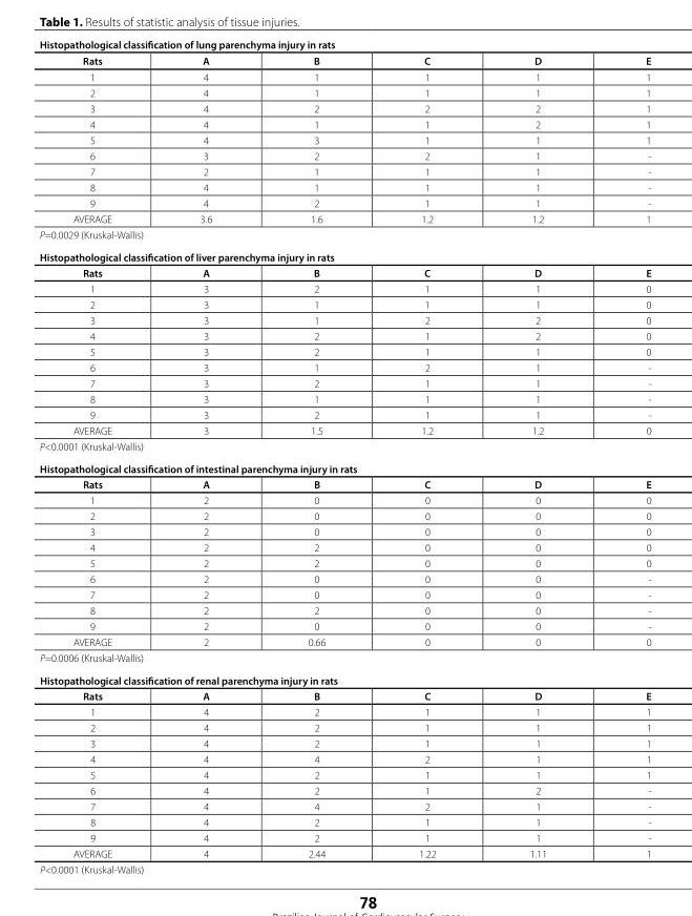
<table><tbody><tr><td colspan="6">Histopathological classification of lung parenchyma injury in rats</td></tr><tr><td>Rats</td><td>A</td><td>B</td><td>C</td><td>D</td><td>E</td></tr><tr><td>1</td><td>4</td><td>1</td><td>1</td><td>1</td><td>1</td></tr><tr><td>2</td><td>4</td><td>1</td><td>1</td><td>1</td><td>1</td></tr><tr><td>3</td><td>4</td><td>2</td><td>2</td><td>2</td><td>1</td></tr><tr><td>4</td><td>4</td><td>1</td><td>1</td><td>2</td><td>1</td></tr><tr><td>5</td><td>4</td><td>3</td><td>1</td><td>1</td><td>1</td></tr><tr><td>6</td><td>3</td><td>2</td><td>2</td><td>1</td><td>-</td></tr><tr><td>7</td><td>2</td><td>1</td><td>1</td><td>1</td><td>-</td></tr><tr><td>8</td><td>4</td><td>1</td><td>1</td><td>1</td><td>-</td></tr><tr><td>9</td><td>4</td><td>2</td><td>1</td><td>1</td><td>-</td></tr><tr><td>AVERAGE</td><td>3.6</td><td>1.6</td><td>1.2</td><td>1.2</td><td>1</td></tr><tr><td colspan="6">P=0.0029 (Kruskal-Wallis)</td></tr><tr><td colspan="6">Histopathological classification of liver parenchyma injury in rats</td></tr><tr><td>Rats</td><td>A</td><td>B</td><td>C</td><td>D</td><td>E</td></tr><tr><td>1</td><td>3</td><td>2</td><td>1</td><td>1</td><td>0</td></tr><tr><td>2</td><td>3</td><td>1</td><td>1</td><td>1</td><td>0</td></tr><tr><td>3</td><td>3</td><td>1</td><td>2</td><td>2</td><td>0</td></tr><tr><td>4</td><td>3</td><td>2</td><td>1</td><td>2</td><td>0</td></tr><tr><td>5</td><td>3</td><td>2</td><td>1</td><td>1</td><td>0</td></tr><tr><td>6</td><td>3</td><td>1</td><td>2</td><td>1</td><td>-</td></tr><tr><td>7</td><td>3</td><td>2</td><td>1</td><td>1</td><td>-</td></tr><tr><td>8</td><td>3</td><td>1</td><td>1</td><td>1</td><td>-</td></tr><tr><td>9</td><td>3</td><td>2</td><td>1</td><td>1</td><td>-</td></tr><tr><td>AVERAGE</td><td>3</td><td>1.5</td><td>1.2</td><td>1.2</td><td>0</td></tr><tr><td colspan="6">P&lt;0.0001 (Kruskal-Wallis)</td></tr><tr><td colspan="6">Histopathological classification of intestinal parenchyma injury in rats</td></tr><tr><td>Rats</td><td>A</td><td>B</td><td>C</td><td>D</td><td>E</td></tr><tr><td>1</td><td>2</td><td>0</td><td>0</td><td>0</td><td>0</td></tr><tr><td>2</td><td>2</td><td>0</td><td>0</td><td>0</td><td>0</td></tr><tr><td>3</td><td>2</td><td>0</td><td>0</td><td>0</td><td>0</td></tr><tr><td>4</td><td>2</td><td>2</td><td>0</td><td>0</td><td>0</td></tr><tr><td>5</td><td>2</td><td>2</td><td>0</td><td>0</td><td>0</td></tr><tr><td>6</td><td>2</td><td>0</td><td>0</td><td>0</td><td>-</td></tr><tr><td>7</td><td>2</td><td>0</td><td>0</td><td>0</td><td>-</td></tr><tr><td>8</td><td>2</td><td>2</td><td>0</td><td>0</td><td>-</td></tr><tr><td>9</td><td>2</td><td>0</td><td>0</td><td>0</td><td>-</td></tr><tr><td>AVERAGE</td><td>2</td><td>0.66</td><td>0</td><td>0</td><td>0</td></tr><tr><td colspan="6">P=0.0006 (Kruskal-Wallis)</td></tr><tr><td colspan="6">Histopathological classification of renal parenchyma injury in rats</td></tr><tr><td>Rats</td><td>A</td><td>B</td><td>C</td><td>D</td><td>E</td></tr><tr><td>1</td><td>4</td><td>2</td><td>1</td><td>1</td><td>1</td></tr><tr><td>2</td><td>4</td><td>2</td><td>1</td><td>1</td><td>1</td></tr><tr><td>3</td><td>4</td><td>2</td><td>1</td><td>1</td><td>1</td></tr><tr><td>4</td><td>4</td><td>4</td><td>2</td><td>1</td><td>1</td></tr><tr><td>5</td><td>4</td><td>2</td><td>1</td><td>1</td><td>1</td></tr><tr><td>6</td><td>4</td><td>2</td><td>1</td><td>2</td><td>-</td></tr><tr><td>7</td><td>4</td><td>4</td><td>2</td><td>1</td><td>-</td></tr><tr><td>8</td><td>4</td><td>2</td><td>1</td><td>1</td><td>-</td></tr><tr><td>9</td><td>4</td><td>2</td><td>1</td><td>1</td><td>-</td></tr><tr><td>AVERAGE</td><td>4</td><td>2.44</td><td>1.22</td><td>1.11</td><td>1</td></tr><tr><td colspan="6">P&lt;0.0001 (Kruskal-Wallis)</td></tr></tbody></table>